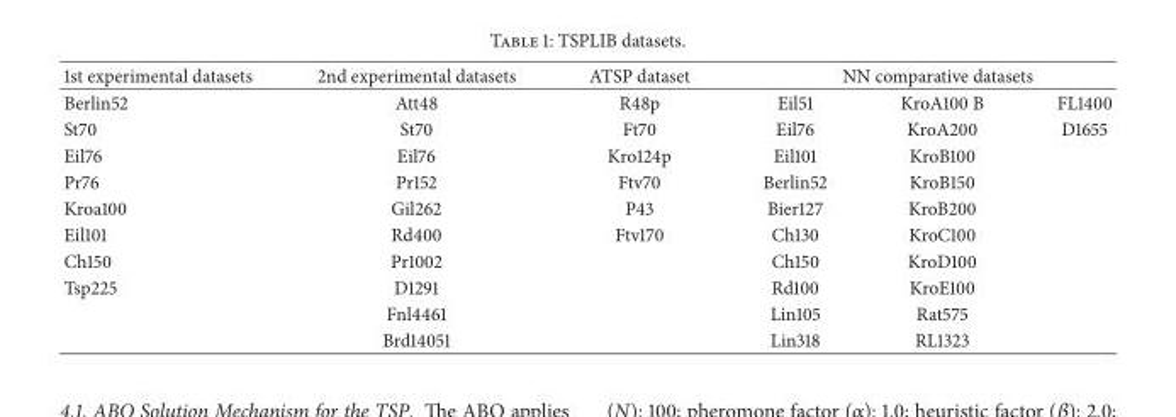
<table><thead><tr><td rowspan="2">1st experimental datasets Berlin52</td><td rowspan="2">2nd experimental datasets Att48</td><td rowspan="2">ATSP dataset R48p</td><td colspan="3">NN comparative datasets</td></tr><tr><td>Eil51</td><td>KroA100 B</td><td>FL1400</td></tr></thead><tbody><tr><td>St70</td><td>St70</td><td>Ft70</td><td>Eil76</td><td>KroA200</td><td>D1655</td></tr><tr><td>Eil76</td><td>Eil76</td><td>Kro124p</td><td>Eil101</td><td>KroB100</td><td></td></tr><tr><td>Pr76</td><td>Pr152</td><td>Ftv70</td><td>Berlin52</td><td>KroB150</td><td></td></tr><tr><td>Kroa100</td><td>Gil262</td><td>P43</td><td>Bier127</td><td>KroB200</td><td></td></tr><tr><td>Eil101</td><td>Rd400</td><td>Ftv170</td><td>Ch130</td><td>KroC100</td><td></td></tr><tr><td>Ch150</td><td>Pr1002</td><td></td><td>Ch150</td><td>KroD100</td><td></td></tr><tr><td rowspan="3">Tsp225</td><td>D1291</td><td></td><td>Rd100</td><td>KroE100</td><td></td></tr><tr><td>Fnl4461</td><td></td><td>Lin105</td><td>Rat575</td><td></td></tr><tr><td>Brd14051</td><td></td><td>Lin318</td><td>RL1323</td><td></td></tr></tbody></table>